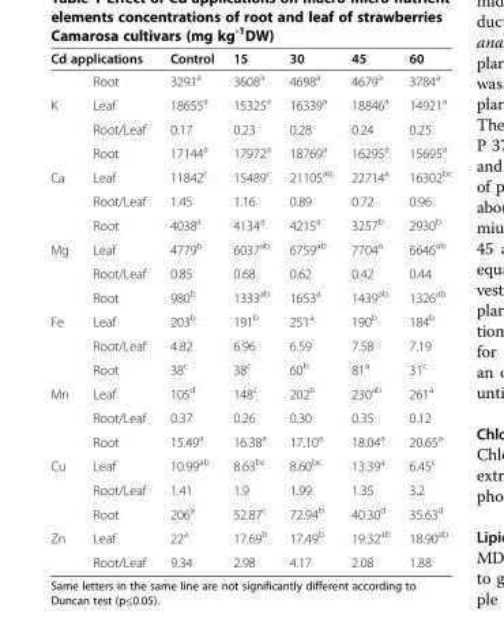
<table><thead><tr><td colspan="2">Cd applications</td><td rowspan="2">Control 3291<sup>a</sup></td><td rowspan="2">15 3608<sup>a</sup></td><td rowspan="2">30 4698<sup>a</sup></td><td rowspan="2">45 4679<sup>a</sup></td><td rowspan="2">60 3784<sup>a</sup></td></tr><tr><td></td><td>Root</td></tr></thead><tbody><tr><td rowspan="3">K</td><td>Leaf</td><td>18655<sup>a</sup></td><td>15325<sup>a</sup></td><td>16339<sup>a</sup></td><td>18846<sup>a</sup></td><td>14921<sup>a</sup></td></tr><tr><td>Root/Leaf</td><td>0.17</td><td>0.23</td><td>0.28</td><td>0.24</td><td>0.25</td></tr><tr><td>Root</td><td>17144<sup>a</sup></td><td>17972<sup>a</sup></td><td>18769<sup>a</sup></td><td>16295<sup>a</sup></td><td>15695<sup>a</sup></td></tr><tr><td rowspan="3">Ca</td><td>Leaf</td><td>11842<sup>c</sup></td><td>15489<sup>c</sup></td><td>21105<sup>ab</sup></td><td>22714<sup>a</sup></td><td>16302<sup>bc</sup></td></tr><tr><td>Root/Leaf</td><td>1.45</td><td>1.16</td><td>0.89</td><td>0.72</td><td>0.96</td></tr><tr><td>Root</td><td>4038<sup>a</sup></td><td>4134<sup>a</sup></td><td>4215<sup>a</sup></td><td>3257<sup>b</sup></td><td>2930<sup>b</sup></td></tr><tr><td rowspan="3">Mg</td><td>Leaf</td><td>4779<sup>b</sup></td><td>6037<sup>ab</sup></td><td>6759<sup>ab</sup></td><td>7704<sup>a</sup></td><td>6646<sup>ab</sup></td></tr><tr><td>Root/Leaf</td><td>0.85</td><td>0.68</td><td>0.62</td><td>0.42</td><td>0.44</td></tr><tr><td>Root</td><td>980<sup>b</sup></td><td>1333<sup>ab</sup></td><td>1653<sup>a</sup></td><td>1439<sup>ab</sup></td><td>1326<sup>ab</sup></td></tr><tr><td rowspan="3">Fe</td><td>Leaf</td><td>203<sup>b</sup></td><td>191<sup>b</sup></td><td>251<sup>a</sup></td><td>190<sup>b</sup></td><td>184<sup>b</sup></td></tr><tr><td>Root/Leaf</td><td>4.82</td><td>6.96</td><td>6.59</td><td>7.58</td><td>7.19</td></tr><tr><td>Root</td><td>38<sup>c</sup></td><td>38<sup>c</sup></td><td>60<sup>b</sup></td><td>81<sup>a</sup></td><td>31<sup>c</sup></td></tr><tr><td rowspan="3">Mn</td><td>Leaf</td><td>105<sup>d</sup></td><td>148<sup>c</sup></td><td>202<sup>b</sup></td><td>230<sup>ab</sup></td><td>261<sup>a</sup></td></tr><tr><td>Root/Leaf</td><td>0.37</td><td>0.26</td><td>0.30</td><td>0.35</td><td>0.12</td></tr><tr><td>Root</td><td>15.49<sup>a</sup></td><td>16.38<sup>a</sup></td><td>17.10<sup>a</sup></td><td>18.04<sup>a</sup></td><td>20.65<sup>a</sup></td></tr><tr><td rowspan="3">Cu</td><td>Leaf</td><td>10.99<sup>ab</sup></td><td>8.63<sup>bc</sup></td><td>8.60<sup>bc</sup></td><td>13.39<sup>a</sup></td><td>6.45<sup>c</sup></td></tr><tr><td>Root/Leaf</td><td>1.41</td><td>1.9</td><td>1.99</td><td>1.35</td><td>3.2</td></tr><tr><td>Root</td><td>206<sup>a</sup></td><td>52.87<sup>c</sup></td><td>72.94<sup>b</sup></td><td>40.30<sup>d</sup></td><td>35.63<sup>d</sup></td></tr><tr><td rowspan="2">Zn</td><td>Leaf</td><td>22<sup>a</sup></td><td>17.69<sup>b</sup></td><td>17.49<sup>b</sup></td><td>19.32<sup>ab</sup></td><td>18.90<sup>ab</sup></td></tr><tr><td>Root/Leaf</td><td>9.34</td><td>2.98</td><td>4.17</td><td>2.08</td><td>1.88</td></tr></tbody></table>